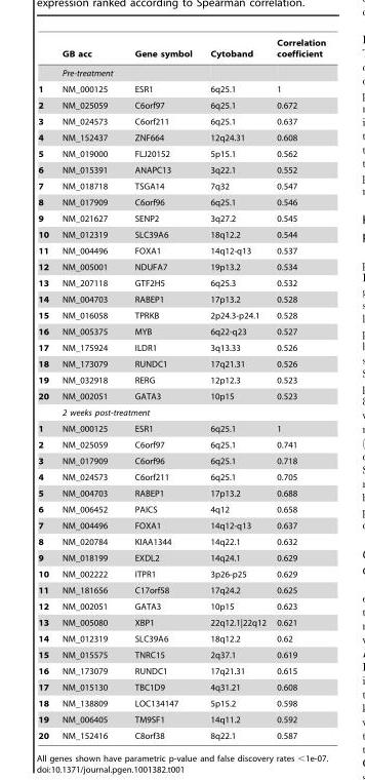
<table><thead><tr><td></td><td>GB acc</td><td>Gene symbol</td><td>Cytoband</td><td>Correlation coefficient</td></tr></thead><tbody><tr><td></td><td colspan="2">Pre-treatment</td><td></td><td></td></tr><tr><td>1</td><td>NM_000125</td><td>ESR1</td><td>6q25.1</td><td>1</td></tr><tr><td>2</td><td>NM_025059</td><td>C6orf97</td><td>6q25.1</td><td>0.672</td></tr><tr><td>3</td><td>NM_024573</td><td>C6orf211</td><td>6q25.1</td><td>0.637</td></tr><tr><td>4</td><td>NM_152437</td><td>ZNF664</td><td>12q24.31</td><td>0.608</td></tr><tr><td>5</td><td>NM_019000</td><td>FLJ20152</td><td>5p15.1</td><td>0.562</td></tr><tr><td>6</td><td>NM_015391</td><td>ANAPC13</td><td>3q22.1</td><td>0.552</td></tr><tr><td>7</td><td>NM_018718</td><td>TSGA14</td><td>7q32</td><td>0.547</td></tr><tr><td>8</td><td>NM_017909</td><td>C6orf96</td><td>6q25.1</td><td>0.546</td></tr><tr><td>9</td><td>NM_021627</td><td>SENP2</td><td>3q27.2</td><td>0.545</td></tr><tr><td>10</td><td>NM_012319</td><td>SLC39A6</td><td>18q12.2</td><td>0.544</td></tr><tr><td>11</td><td>NM_004496</td><td>FOXA1</td><td>14q12-q13</td><td>0.537</td></tr><tr><td>12</td><td>NM_005001</td><td>NDUFA7</td><td>19p13.2</td><td>0.534</td></tr><tr><td>13</td><td>NM_207118</td><td>GTF2H5</td><td>6q25.3</td><td>0.532</td></tr><tr><td>14</td><td>NM_004703</td><td>RABEP1</td><td>17p13.2</td><td>0.528</td></tr><tr><td>15</td><td>NM_016058</td><td>TPRKB</td><td>2p24.3-p24.1</td><td>0.528</td></tr><tr><td>16</td><td>NM_005375</td><td>MYB</td><td>6q22-q23</td><td>0.527</td></tr><tr><td>17</td><td>NM_175924</td><td>ILDR1</td><td>3q13.33</td><td>0.526</td></tr><tr><td>18</td><td>NM_173079</td><td>RUNDC1</td><td>17q21.31</td><td>0.526</td></tr><tr><td>19</td><td>NM_032918</td><td>RERG</td><td>12p12.3</td><td>0.523</td></tr><tr><td rowspan="2">20</td><td>NM_002051</td><td>GATA3</td><td>10p15</td><td>0.523</td></tr><tr><td colspan="2">2 weeks post-treatment</td><td></td><td></td></tr><tr><td>1</td><td>NM_000125</td><td>ESR1</td><td>6q25.1</td><td>1</td></tr><tr><td>2</td><td>NM_025059</td><td>C6orf97</td><td>6q25.1</td><td>0.741</td></tr><tr><td>3</td><td>NM_017909</td><td>C6orf96</td><td>6q25.1</td><td>0.718</td></tr><tr><td>4</td><td>NM_024573</td><td>C6orf211</td><td>6q25.1</td><td>0.705</td></tr><tr><td>5</td><td>NM_004703</td><td>RABEP1</td><td>17p13.2</td><td>0.688</td></tr><tr><td>6</td><td>NM_006452</td><td>PAICS</td><td>4q12</td><td>0.658</td></tr><tr><td>7</td><td>NM_004496</td><td>FOXA1</td><td>14q12-q13</td><td>0.637</td></tr><tr><td>8</td><td>NM_020784</td><td>KIAA1344</td><td>14q22.1</td><td>0.632</td></tr><tr><td>9</td><td>NM_018199</td><td>EXDL2</td><td>14q24.1</td><td>0.629</td></tr><tr><td>10</td><td>NM_002222</td><td>ITPR1</td><td>3p26-p25</td><td>0.629</td></tr><tr><td>11</td><td>NM_181656</td><td>C17orf58</td><td>17q24.2</td><td>0.625</td></tr><tr><td>12</td><td>NM_002051</td><td>GATA3</td><td>10p15</td><td>0.623</td></tr><tr><td>13</td><td>NM_005080</td><td>XBP1</td><td>22q12.1|22q12</td><td>0.621</td></tr><tr><td>14</td><td>NM_012319</td><td>SLC39A6</td><td>18q12.2</td><td>0.62</td></tr><tr><td>15</td><td>NM_015575</td><td>TNRC15</td><td>2q37.1</td><td>0.619</td></tr><tr><td>16</td><td>NM_173079</td><td>RUNDC1</td><td>17q21.31</td><td>0.615</td></tr><tr><td>17</td><td>NM_015130</td><td>TBC1D9</td><td>4q31.21</td><td>0.608</td></tr><tr><td>18</td><td>NM_138809</td><td>LOC134147</td><td>5p15.2</td><td>0.598</td></tr><tr><td>19</td><td>NM_006405</td><td>TM9SF1</td><td>14q11.2</td><td>0.592</td></tr><tr><td>20</td><td>NM_152416</td><td>C8orf38</td><td>8q22.1</td><td>0.587</td></tr></tbody></table>